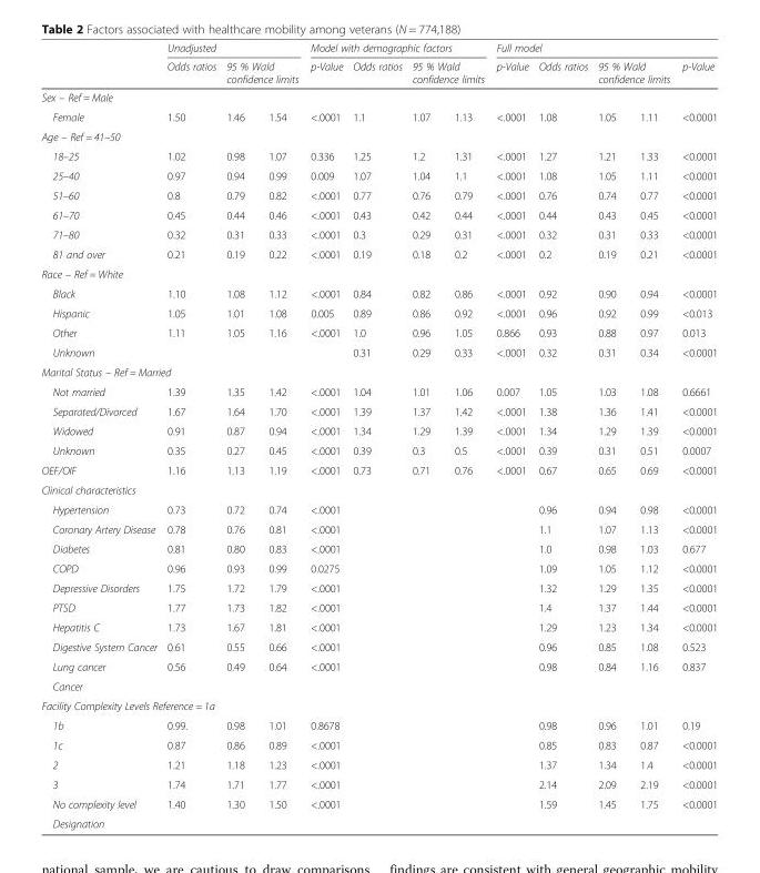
<table><thead><tr><td rowspan="2"></td><td colspan="3">Unadjusted</td><td colspan="4">Model with demographic factors</td><td colspan="5">Full model</td></tr><tr><td>Odds ratios</td><td colspan="2">95 % Wald confidence limits</td><td>p-Value</td><td>Odds ratios</td><td colspan="2">95 % Wald confidence limits</td><td>p-Value</td><td>Odds ratios</td><td colspan="2">95 % Wald confidence limits</td><td>p-Value</td></tr><tr><td colspan="13">Sex – Ref = Male</td></tr><tr><td>Female</td><td>1.50</td><td>1.46</td><td>1.54</td><td>&lt;.0001</td><td>1.1</td><td>1.07</td><td>1.13</td><td>&lt;.0001</td><td>1.08</td><td>1.05</td><td>1.11</td><td>&lt;0.0001</td></tr></thead><tbody><tr><td colspan="13">Age – Ref = 41–50</td></tr><tr><td>18–25</td><td>1.02</td><td>0.98</td><td>1.07</td><td>0.336</td><td>1.25</td><td>1.2</td><td>1.31</td><td>&lt;.0001</td><td>1.27</td><td>1.21</td><td>1.33</td><td>&lt;0.0001</td></tr><tr><td>25–40</td><td>0.97</td><td>0.94</td><td>0.99</td><td>0.009</td><td>1.07</td><td>1.04</td><td>1.1</td><td>&lt;.0001</td><td>1.08</td><td>1.05</td><td>1.11</td><td>&lt;0.0001</td></tr><tr><td>51–60</td><td>0.8</td><td>0.79</td><td>0.82</td><td>&lt;.0001</td><td>0.77</td><td>0.76</td><td>0.79</td><td>&lt;.0001</td><td>0.76</td><td>0.74</td><td>0.77</td><td>&lt;0.0001</td></tr><tr><td>61–70</td><td>0.45</td><td>0.44</td><td>0.46</td><td>&lt;.0001</td><td>0.43</td><td>0.42</td><td>0.44</td><td>&lt;.0001</td><td>0.44</td><td>0.43</td><td>0.45</td><td>&lt;0.0001</td></tr><tr><td>71–80</td><td>0.32</td><td>0.31</td><td>0.33</td><td>&lt;.0001</td><td>0.3</td><td>0.29</td><td>0.31</td><td>&lt;.0001</td><td>0.32</td><td>0.31</td><td>0.33</td><td>&lt;0.0001</td></tr><tr><td>81 and over</td><td>0.21</td><td>0.19</td><td>0.22</td><td>&lt;.0001</td><td>0.19</td><td>0.18</td><td>0.2</td><td>&lt;.0001</td><td>0.2</td><td>0.19</td><td>0.21</td><td>&lt;0.0001</td></tr><tr><td colspan="13">Race – Ref = White</td></tr><tr><td>Black</td><td>1.10</td><td>1.08</td><td>1.12</td><td>&lt;.0001</td><td>0.84</td><td>0.82</td><td>0.86</td><td>&lt;.0001</td><td>0.92</td><td>0.90</td><td>0.94</td><td>&lt;0.0001</td></tr><tr><td>Hispanic</td><td>1.05</td><td>1.01</td><td>1.08</td><td>0.005</td><td>0.89</td><td>0.86</td><td>0.92</td><td>&lt;.0001</td><td>0.96</td><td>0.92</td><td>0.99</td><td>&lt;0.013</td></tr><tr><td>Other</td><td>1.11</td><td>1.05</td><td>1.16</td><td>&lt;.0001</td><td>1.0</td><td>0.96</td><td>1.05</td><td>0.866</td><td>0.93</td><td>0.88</td><td>0.97</td><td>0.013</td></tr><tr><td>Unknown</td><td></td><td></td><td></td><td></td><td>0.31</td><td>0.29</td><td>0.33</td><td>&lt;.0001</td><td>0.32</td><td>0.31</td><td>0.34</td><td>&lt;0.0001</td></tr><tr><td colspan="13">Marital Status – Ref = Married</td></tr><tr><td>Not married</td><td>1.39</td><td>1.35</td><td>1.42</td><td>&lt;.0001</td><td>1.04</td><td>1.01</td><td>1.06</td><td>0.007</td><td>1.05</td><td>1.03</td><td>1.08</td><td>0.6661</td></tr><tr><td>Separated/Divorced</td><td>1.67</td><td>1.64</td><td>1.70</td><td>&lt;.0001</td><td>1.39</td><td>1.37</td><td>1.42</td><td>&lt;.0001</td><td>1.38</td><td>1.36</td><td>1.41</td><td>&lt;0.0001</td></tr><tr><td>Widowed</td><td>0.91</td><td>0.87</td><td>0.94</td><td>&lt;.0001</td><td>1.34</td><td>1.29</td><td>1.39</td><td>&lt;.0001</td><td>1.34</td><td>1.29</td><td>1.39</td><td>&lt;0.0001</td></tr><tr><td>Unknown</td><td>0.35</td><td>0.27</td><td>0.45</td><td>&lt;.0001</td><td>0.39</td><td>0.3</td><td>0.5</td><td>&lt;.0001</td><td>0.39</td><td>0.31</td><td>0.51</td><td>0.0007</td></tr><tr><td>OEF/OIF</td><td>1.16</td><td>1.13</td><td>1.19</td><td>&lt;.0001</td><td>0.73</td><td>0.71</td><td>0.76</td><td>&lt;.0001</td><td>0.67</td><td>0.65</td><td>0.69</td><td>&lt;0.0001</td></tr><tr><td colspan="13">Clinical characteristics</td></tr><tr><td>Hypertension</td><td>0.73</td><td>0.72</td><td>0.74</td><td>&lt;.0001</td><td></td><td></td><td></td><td></td><td>0.96</td><td>0.94</td><td>0.98</td><td>&lt;0.0001</td></tr><tr><td>Coronary Artery Disease</td><td>0.78</td><td>0.76</td><td>0.81</td><td>&lt;.0001</td><td></td><td></td><td></td><td></td><td>1.1</td><td>1.07</td><td>1.13</td><td>&lt;0.0001</td></tr><tr><td>Diabetes</td><td>0.81</td><td>0.80</td><td>0.83</td><td>&lt;.0001</td><td></td><td></td><td></td><td></td><td>1.0</td><td>0.98</td><td>1.03</td><td>0.677</td></tr><tr><td>COPD</td><td>0.96</td><td>0.93</td><td>0.99</td><td>0.0275</td><td></td><td></td><td></td><td></td><td>1.09</td><td>1.05</td><td>1.12</td><td>&lt;0.0001</td></tr><tr><td>Depressive Disorders</td><td>1.75</td><td>1.72</td><td>1.79</td><td>&lt;.0001</td><td></td><td></td><td></td><td></td><td>1.32</td><td>1.29</td><td>1.35</td><td>&lt;0.0001</td></tr><tr><td>PTSD</td><td>1.77</td><td>1.73</td><td>1.82</td><td>&lt;.0001</td><td></td><td></td><td></td><td></td><td>1.4</td><td>1.37</td><td>1.44</td><td>&lt;0.0001</td></tr><tr><td>Hepatitis C</td><td>1.73</td><td>1.67</td><td>1.81</td><td>&lt;.0001</td><td></td><td></td><td></td><td></td><td>1.29</td><td>1.23</td><td>1.34</td><td>&lt;0.0001</td></tr><tr><td>Digestive System Cancer</td><td>0.61</td><td>0.55</td><td>0.66</td><td>&lt;.0001</td><td></td><td></td><td></td><td></td><td>0.96</td><td>0.85</td><td>1.08</td><td>0.523</td></tr><tr><td>Lung cancer</td><td rowspan="2">0.56</td><td rowspan="2">0.49</td><td rowspan="2">0.64</td><td rowspan="2">&lt;.0001</td><td rowspan="2"></td><td rowspan="2"></td><td rowspan="2"></td><td rowspan="2"></td><td rowspan="2">0.98</td><td rowspan="2">0.84</td><td rowspan="2">1.16</td><td rowspan="2">0.837</td></tr><tr><td>Cancer</td></tr><tr><td colspan="13">Facility Complexity Levels Reference = 1a</td></tr><tr><td>1b</td><td>0.99.</td><td>0.98</td><td>1.01</td><td>0.8678</td><td></td><td></td><td></td><td></td><td>0.98</td><td>0.96</td><td>1.01</td><td>0.19</td></tr><tr><td>1c</td><td>0.87</td><td>0.86</td><td>0.89</td><td>&lt;.0001</td><td></td><td></td><td></td><td></td><td>0.85</td><td>0.83</td><td>0.87</td><td>&lt;0.0001</td></tr><tr><td>2</td><td>1.21</td><td>1.18</td><td>1.23</td><td>&lt;.0001</td><td></td><td></td><td></td><td></td><td>1.37</td><td>1.34</td><td>1.4</td><td>&lt;0.0001</td></tr><tr><td>3</td><td>1.74</td><td>1.71</td><td>1.77</td><td>&lt;.0001</td><td></td><td></td><td></td><td></td><td>2.14</td><td>2.09</td><td>2.19</td><td>&lt;0.0001</td></tr><tr><td>No complexity level</td><td rowspan="2">1.40</td><td rowspan="2">1.30</td><td rowspan="2">1.50</td><td rowspan="2">&lt;.0001</td><td rowspan="2"></td><td rowspan="2"></td><td rowspan="2"></td><td rowspan="2"></td><td rowspan="2">1.59</td><td rowspan="2">1.45</td><td rowspan="2">1.75</td><td rowspan="2">&lt;0.0001</td></tr><tr><td>Designation</td></tr></tbody></table>